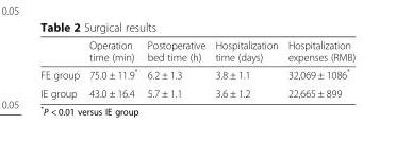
<table><thead><tr><td></td><td>Operation time (min)</td><td>Postoperative bed time (h)</td><td>Hospitalization time (days)</td><td>Hospitalization expenses (RMB)</td></tr></thead><tbody><tr><td>FE group</td><td>75.0 ± 11.9*</td><td>6.2 ± 1.3</td><td>3.8 ± 1.1</td><td>32,069 ± 1086*</td></tr><tr><td>IE group</td><td>43.0 ± 16.4</td><td>5.7 ± 1.1</td><td>3.6 ± 1.2</td><td>22,665 ± 899</td></tr></tbody></table>